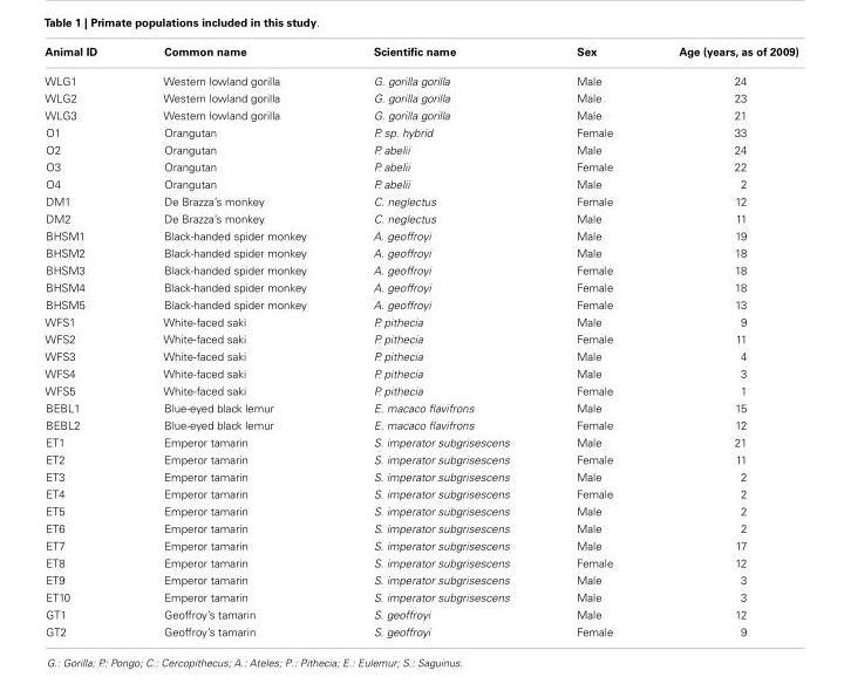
<table><thead><tr><td>Animal ID</td><td>Common name</td><td>Scientific name</td><td>Sex</td><td>Age (years, as of 2009)</td></tr></thead><tbody><tr><td>WLG1</td><td>Western lowland gorilla</td><td>G. gorilla gorilla</td><td>Male</td><td>24</td></tr><tr><td>WLG2</td><td>Western lowland gorilla</td><td>G. gorilla gorilla</td><td>Male</td><td>23</td></tr><tr><td>WLG3</td><td>Western lowland gorilla</td><td>G. gorilla gorilla</td><td>Male</td><td>21</td></tr><tr><td>O1</td><td>Orangutan</td><td>P. sp. hybrid</td><td>Female</td><td>33</td></tr><tr><td>O2</td><td>Orangutan</td><td>P. abelii</td><td>Male</td><td>24</td></tr><tr><td>O3</td><td>Orangutan</td><td>P. abelii</td><td>Female</td><td>22</td></tr><tr><td>O4</td><td>Orangutan</td><td>P. abelii</td><td>Male</td><td>2</td></tr><tr><td>DM1</td><td>De Brazza’s monkey</td><td>C. neglectus</td><td>Female</td><td>12</td></tr><tr><td>DM2</td><td>De Brazza’s monkey</td><td>C. neglectus</td><td>Male</td><td>11</td></tr><tr><td>BHSM1</td><td>Black-handed spider monkey</td><td>A. geoffroyi</td><td>Male</td><td>19</td></tr><tr><td>BHSM2</td><td>Black-handed spider monkey</td><td>A. geoffroyi</td><td>Male</td><td>18</td></tr><tr><td>BHSM3</td><td>Black-handed spider monkey</td><td>A. geoffroyi</td><td>Female</td><td>18</td></tr><tr><td>BHSM4</td><td>Black-handed spider monkey</td><td>A. geoffroyi</td><td>Female</td><td>18</td></tr><tr><td>BHSM5</td><td>Black-handed spider monkey</td><td>A. geoffroyi</td><td>Female</td><td>13</td></tr><tr><td>WFS1</td><td>White-faced saki</td><td>P. pithecia</td><td>Male</td><td>9</td></tr><tr><td>WFS2</td><td>White-faced saki</td><td>P. pithecia</td><td>Female</td><td>11</td></tr><tr><td>WFS3</td><td>White-faced saki</td><td>P. pithecia</td><td>Male</td><td>4</td></tr><tr><td>WFS4</td><td>White-faced saki</td><td>P. pithecia</td><td>Male</td><td>3</td></tr><tr><td>WFS5</td><td>White-faced saki</td><td>P. pithecia</td><td>Female</td><td>1</td></tr><tr><td>BEBL1</td><td>Blue-eyed black lemur</td><td>E. macaco flavifrons</td><td>Male</td><td>15</td></tr><tr><td>BEBL2</td><td>Blue-eyed black lemur</td><td>E. macaco flavifrons</td><td>Female</td><td>12</td></tr><tr><td>ET1</td><td>Emperor tamarin</td><td>S. imperator subgrisescens</td><td>Male</td><td>21</td></tr><tr><td>ET2</td><td>Emperor tamarin</td><td>S. imperator subgrisescens</td><td>Female</td><td>11</td></tr><tr><td>ET3</td><td>Emperor tamarin</td><td>S. imperator subgrisescens</td><td>Male</td><td>2</td></tr><tr><td>ET4</td><td>Emperor tamarin</td><td>S. imperator subgrisescens</td><td>Female</td><td>2</td></tr><tr><td>ET5</td><td>Emperor tamarin</td><td>S. imperator subgrisescens</td><td>Male</td><td>2</td></tr><tr><td>ET6</td><td>Emperor tamarin</td><td>S. imperator subgrisescens</td><td>Male</td><td>2</td></tr><tr><td>ET7</td><td>Emperor tamarin</td><td>S. imperator subgrisescens</td><td>Male</td><td>17</td></tr><tr><td>ET8</td><td>Emperor tamarin</td><td>S. imperator subgrisescens</td><td>Female</td><td>12</td></tr><tr><td>ET9</td><td>Emperor tamarin</td><td>S. imperator subgrisescens</td><td>Male</td><td>3</td></tr><tr><td>ET10</td><td>Emperor tamarin</td><td>S. imperator subgrisescens</td><td>Male</td><td>3</td></tr><tr><td>GT1</td><td>Geoffroy’s tamarin</td><td>S. geoffroyi</td><td>Male</td><td>12</td></tr><tr><td>GT2</td><td>Geoffroy’s tamarin</td><td>S. geoffroyi</td><td>Female</td><td>9</td></tr></tbody></table>